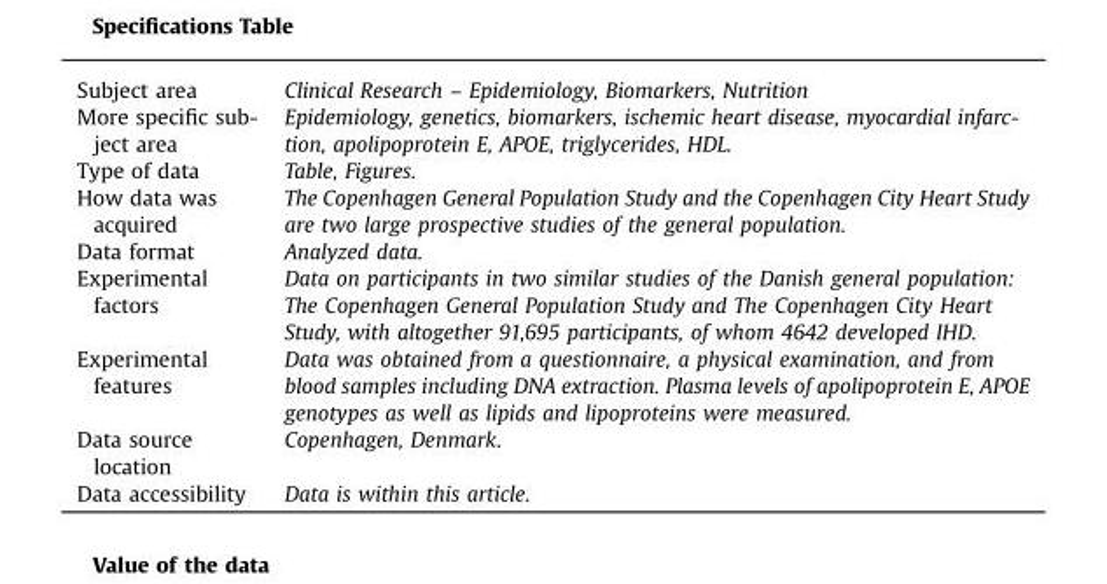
<table><tbody><tr><td>Subject area</td><td>Clinical Research – Epidemiology, Biomarkers, Nutrition</td></tr><tr><td>More specific sub- ject area</td><td>Epidemiology, genetics, biomarkers, ischemic heart disease, myocardial infarc- tion, apolipoprotein E, APOE, triglycerides, HDL.</td></tr><tr><td>Type of data</td><td>Table, Figures.</td></tr><tr><td>How data was acquired</td><td>The Copenhagen General Population Study and the Copenhagen City Heart Study are two large prospective studies of the general population.</td></tr><tr><td>Data format</td><td>Analyzed data.</td></tr><tr><td>Experimental factors</td><td>Data on participants in two similar studies of the Danish general population: The Copenhagen General Population Study and The Copenhagen City Heart Study, with altogether 91,695 participants, of whom 4642 developed IHD.</td></tr><tr><td>Experimental features</td><td>Data was obtained from a questionnaire, a physical examination, and from blood samples including DNA extraction. Plasma levels of apolipoprotein E, APOE genotypes as well as lipids and lipoproteins were measured.</td></tr><tr><td>Data source location</td><td>Copenhagen, Denmark.</td></tr><tr><td>Data accessibility</td><td>Data is within this article.</td></tr></tbody></table>